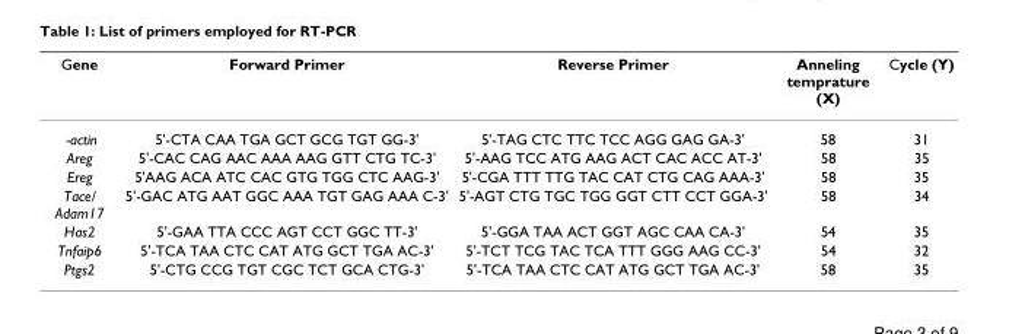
<table><thead><tr><td>Gene</td><td>Forward Primer</td><td>Reverse Primer</td><td>Anneling temprature (X)</td><td>Cycle (Y)</td></tr></thead><tbody><tr><td>-actin</td><td>5&#x27;-CTA CAA TGA GCT GCG TGT GG-3&#x27;</td><td>5&#x27;-TAG CTC TTC TCC AGG GAG GA-3&#x27;</td><td>58</td><td>31</td></tr><tr><td>Areg</td><td>5&#x27;-CAC CAG AAC AAA AAG GTT CTG TC-3&#x27;</td><td>5&#x27;-AAG TCC ATG AAG ACT CAC ACC AT-3&#x27;</td><td>58</td><td>35</td></tr><tr><td>Ereg</td><td>5&#x27;AAG ACA ATC CAC GTG TGG CTC AAG-3&#x27;</td><td>5&#x27;-CGA TTT TTG TAC CAT CTG CAG AAA-3&#x27;</td><td>58</td><td>35</td></tr><tr><td>Tace/ Adam17</td><td>5&#x27;-GAC ATG AAT GGC AAA TGT GAG AAA C-3&#x27;</td><td>5&#x27;-AGT CTG TGC TGG GGT CTT CCT GGA-3&#x27;</td><td>58</td><td>34</td></tr><tr><td>Has2</td><td>5&#x27;-GAA TTA CCC AGT CCT GGC TT-3&#x27;</td><td>5&#x27;-GGA TAA ACT GGT AGC CAA CA-3&#x27;</td><td>54</td><td>35</td></tr><tr><td>Tnfaip6</td><td>5&#x27;-TCA TAA CTC CAT ATG GCT TGA AC-3&#x27;</td><td>5&#x27;-TCT TCG TAC TCA TTT GGG AAG CC-3&#x27;</td><td>54</td><td>32</td></tr><tr><td>Ptgs2</td><td>5&#x27;-CTG CCG TGT CGC TCT GCA CTG-3&#x27;</td><td>5&#x27;-TCA TAA CTC CAT ATG GCT TGA AC-3&#x27;</td><td>58</td><td>35</td></tr></tbody></table>